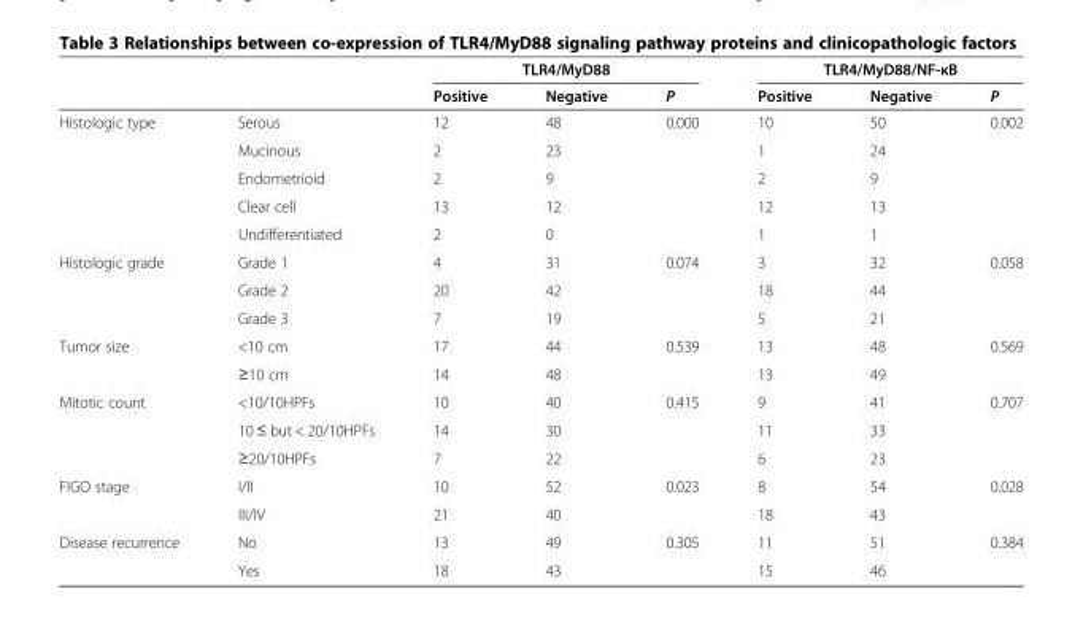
<table><thead><tr><td rowspan="2"></td><td rowspan="2"></td><td colspan="2">TLR4/MyD88</td><td rowspan="2">P</td><td colspan="2">TLR4/MyD88/NF-κB</td><td rowspan="2">P</td></tr><tr><td>Positive</td><td>Negative</td><td>Positive</td><td>Negative</td></tr></thead><tbody><tr><td rowspan="5">Histologic type</td><td>Serous</td><td>12</td><td>48</td><td>0.000</td><td>10</td><td>50</td><td>0.002</td></tr><tr><td>Mucinous</td><td>2</td><td>23</td><td></td><td>1</td><td>24</td><td></td></tr><tr><td>Endometrioid</td><td>2</td><td>9</td><td></td><td>2</td><td>9</td><td></td></tr><tr><td>Clear cell</td><td>13</td><td>12</td><td></td><td>12</td><td>13</td><td></td></tr><tr><td>Undifferentiated</td><td>2</td><td>0</td><td></td><td>1</td><td>1</td><td></td></tr><tr><td rowspan="3">Histologic grade</td><td>Grade 1</td><td>4</td><td>31</td><td>0.074</td><td>3</td><td>32</td><td>0.058</td></tr><tr><td>Grade 2</td><td>20</td><td>42</td><td></td><td>18</td><td>44</td><td></td></tr><tr><td>Grade 3</td><td>7</td><td>19</td><td></td><td>5</td><td>21</td><td></td></tr><tr><td rowspan="2">Tumor size</td><td>&lt;10 cm</td><td>17</td><td>44</td><td>0.539</td><td>13</td><td>48</td><td>0.569</td></tr><tr><td>≥10 cm</td><td>14</td><td>48</td><td></td><td>13</td><td>49</td><td></td></tr><tr><td rowspan="3">Mitotic count</td><td>&lt;10/10HPFs</td><td>10</td><td>40</td><td>0.415</td><td>9</td><td>41</td><td>0.707</td></tr><tr><td>10 ≤ but &lt; 20/10HPFs</td><td>14</td><td>30</td><td></td><td>11</td><td>33</td><td></td></tr><tr><td>≥20/10HPFs</td><td>7</td><td>22</td><td></td><td>6</td><td>23</td><td></td></tr><tr><td rowspan="2">FIGO stage</td><td>I/II</td><td>10</td><td>52</td><td>0.023</td><td>8</td><td>54</td><td>0.028</td></tr><tr><td>III/IV</td><td>21</td><td>40</td><td></td><td>18</td><td>43</td><td></td></tr><tr><td rowspan="2">Disease recurrence</td><td>No</td><td>13</td><td>49</td><td>0.305</td><td>11</td><td>51</td><td>0.384</td></tr><tr><td>Yes</td><td>18</td><td>43</td><td></td><td>15</td><td>46</td><td></td></tr></tbody></table>